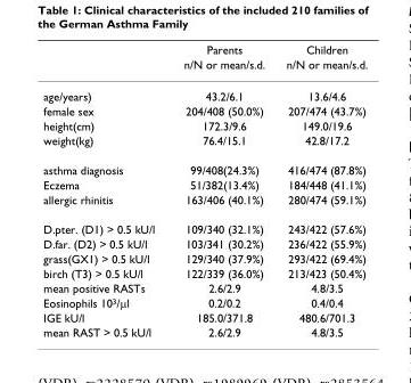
<table><thead><tr><td rowspan="2"></td><td rowspan="2">Parents n/N or mean/s.d.</td><td rowspan="2">Children n/N or mean/s.d.</td></tr><tr></tr></thead><tbody><tr><td>age/years)</td><td>43.2/6.1</td><td>13.6/4.6</td></tr><tr><td>female sex</td><td>204/408 (50.0%)</td><td>207/474 (43.7%)</td></tr><tr><td>height(cm)</td><td>172.3/9.6</td><td>149.0/19.6</td></tr><tr><td>weight(kg)</td><td>76.4/15.1</td><td>42.8/17.2</td></tr><tr><td>asthma diagnosis</td><td>99/408(24.3%)</td><td>416/474 (87.8%)</td></tr><tr><td>Eczema</td><td>51/382(13.4%)</td><td>184/448 (41.1%)</td></tr><tr><td>allergic rhinitis</td><td>163/406 (40.1%)</td><td>280/474 (59.1%)</td></tr><tr><td>D.pter. (D1) &gt; 0.5 kU/l</td><td>109/340 (32.1%)</td><td>243/422 (57.6%)</td></tr><tr><td>D.far. (D2) &gt; 0.5 kU/l</td><td>103/341 (30.2%)</td><td>236/422 (55.9%)</td></tr><tr><td>grass(GX1) &gt; 0.5 kU/l</td><td>129/340 (37.9%)</td><td>293/422 (69.4%)</td></tr><tr><td>birch (T3) &gt; 0.5 kU/l</td><td>122/339 (36.0%)</td><td>213/423 (50.4%)</td></tr><tr><td>mean positive RASTs</td><td>2.6/2.9</td><td>4.8/3.5</td></tr><tr><td>Eosinophils 10<sup>3</sup>/µl</td><td>0.2/0.2</td><td>0.4/0.4</td></tr><tr><td>IGE kU/l</td><td>185.0/371.8</td><td>480.6/701.3</td></tr><tr><td>mean RAST &gt; 0.5 kU/l</td><td>2.6/2.9</td><td>4.8/3.5</td></tr></tbody></table>